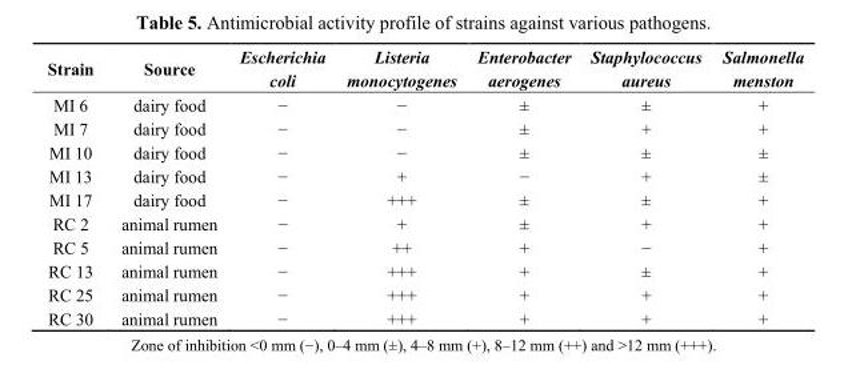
<table><thead><tr><td>Strain</td><td>Source</td><td>Escherichia coli</td><td>Listeria monocytogenes</td><td>Enterobacter aerogenes</td><td>Staphylococcus aureus</td><td>Salmonella menston</td></tr></thead><tbody><tr><td>MI 6</td><td>dairy food</td><td>−</td><td>−</td><td>±</td><td>±</td><td>+</td></tr><tr><td>MI 7</td><td>dairy food</td><td>−</td><td>−</td><td>±</td><td>+</td><td>+</td></tr><tr><td>MI 10</td><td>dairy food</td><td>−</td><td>−</td><td>±</td><td>±</td><td>±</td></tr><tr><td>MI 13</td><td>dairy food</td><td>−</td><td>+</td><td>−</td><td>+</td><td>±</td></tr><tr><td>MI 17</td><td>dairy food</td><td>−</td><td>+++</td><td>±</td><td>±</td><td>+</td></tr><tr><td>RC 2</td><td>animal rumen</td><td>−</td><td>+</td><td>±</td><td>+</td><td>+</td></tr><tr><td>RC 5</td><td>animal rumen</td><td>−</td><td>++</td><td>+</td><td>−</td><td>+</td></tr><tr><td>RC 13</td><td>animal rumen</td><td>−</td><td>+++</td><td>+</td><td>±</td><td>+</td></tr><tr><td>RC 25</td><td>animal rumen</td><td>−</td><td>+++</td><td>+</td><td>+</td><td>+</td></tr><tr><td>RC 30</td><td>animal rumen</td><td>−</td><td>+++</td><td>+</td><td>+</td><td>+</td></tr></tbody></table>